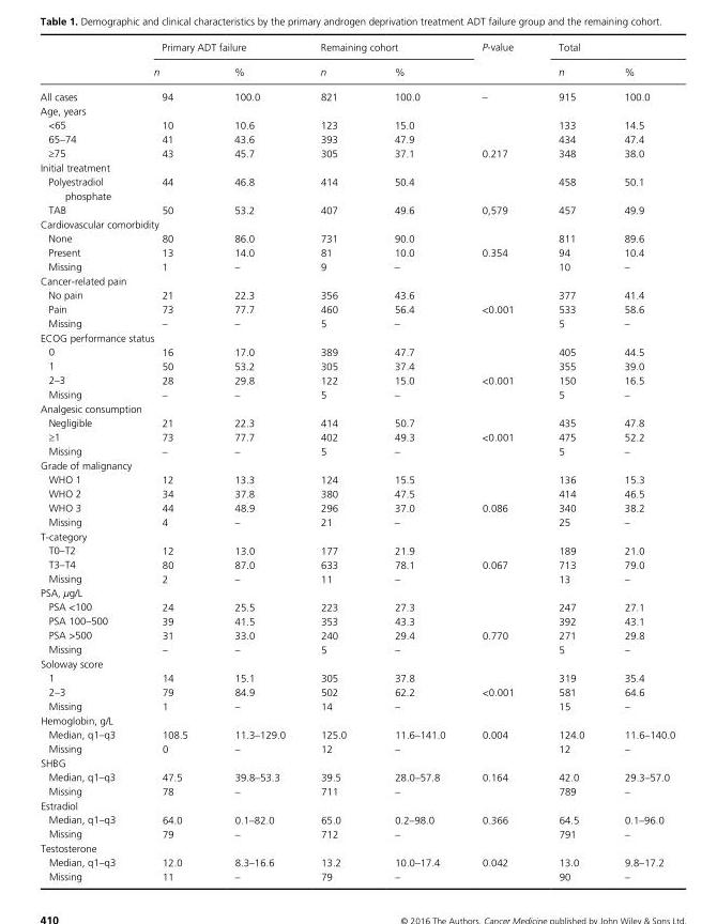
<table><thead><tr><td rowspan="2"></td><td colspan="2">Primary ADT failure</td><td colspan="2">Remaining cohort</td><td rowspan="2">P- value</td><td colspan="2">Total</td></tr><tr><td>n</td><td>%</td><td>n</td><td>%</td><td>n</td><td>%</td></tr></thead><tbody><tr><td>All cases</td><td>94</td><td>100.0</td><td>821</td><td>100.0</td><td>–</td><td>915</td><td>100.0</td></tr><tr><td colspan="8">Age, years</td></tr><tr><td>&lt;65</td><td>10</td><td>10.6</td><td>123</td><td>15.0</td><td></td><td>133</td><td>14.5</td></tr><tr><td>65–74</td><td>41</td><td>43.6</td><td>393</td><td>47.9</td><td></td><td>434</td><td>47.4</td></tr><tr><td>≥75</td><td>43</td><td>45.7</td><td>305</td><td>37.1</td><td>0.217</td><td>348</td><td>38.0</td></tr><tr><td colspan="8">Initial treatment</td></tr><tr><td>Polyestradiol phosphate</td><td>44</td><td>46.8</td><td>414</td><td>50.4</td><td></td><td>458</td><td>50.1</td></tr><tr><td>TAB</td><td>50</td><td>53.2</td><td>407</td><td>49.6</td><td>0,579</td><td>457</td><td>49.9</td></tr><tr><td colspan="8">Cardiovascular comorbidity</td></tr><tr><td>None</td><td>80</td><td>86.0</td><td>731</td><td>90.0</td><td></td><td>811</td><td>89.6</td></tr><tr><td>Present</td><td>13</td><td>14.0</td><td>81</td><td>10.0</td><td>0.354</td><td>94</td><td>10.4</td></tr><tr><td>Missing</td><td>1</td><td>–</td><td>9</td><td>–</td><td></td><td>10</td><td>–</td></tr><tr><td colspan="8">Cancer- related pain</td></tr><tr><td>No pain</td><td>21</td><td>22.3</td><td>356</td><td>43.6</td><td></td><td>377</td><td>41.4</td></tr><tr><td>Pain</td><td>73</td><td>77.7</td><td>460</td><td>56.4</td><td>&lt;0.001</td><td>533</td><td>58.6</td></tr><tr><td>Missing</td><td>–</td><td>–</td><td>5</td><td>–</td><td></td><td>5</td><td>–</td></tr><tr><td colspan="8">ECOG performance status</td></tr><tr><td>0</td><td>16</td><td>17.0</td><td>389</td><td>47.7</td><td></td><td>405</td><td>44.5</td></tr><tr><td>1</td><td>50</td><td>53.2</td><td>305</td><td>37.4</td><td></td><td>355</td><td>39.0</td></tr><tr><td>2–3</td><td>28</td><td>29.8</td><td>122</td><td>15.0</td><td>&lt;0.001</td><td>150</td><td>16.5</td></tr><tr><td>Missing</td><td>–</td><td>–</td><td>5</td><td>–</td><td></td><td>5</td><td>–</td></tr><tr><td colspan="8">Analgesic consumption</td></tr><tr><td>Negligible</td><td>21</td><td>22.3</td><td>414</td><td>50.7</td><td></td><td>435</td><td>47.8</td></tr><tr><td>≥1</td><td>73</td><td>77.7</td><td>402</td><td>49.3</td><td>&lt;0.001</td><td>475</td><td>52.2</td></tr><tr><td>Missing</td><td>–</td><td>–</td><td>5</td><td>–</td><td></td><td>5</td><td>–</td></tr><tr><td colspan="8">Grade of malignancy</td></tr><tr><td>WHO 1</td><td>12</td><td>13.3</td><td>124</td><td>15.5</td><td></td><td>136</td><td>15.3</td></tr><tr><td>WHO 2</td><td>34</td><td>37.8</td><td>380</td><td>47.5</td><td></td><td>414</td><td>46.5</td></tr><tr><td>WHO 3</td><td>44</td><td>48.9</td><td>296</td><td>37.0</td><td>0.086</td><td>340</td><td>38.2</td></tr><tr><td>Missing</td><td>4</td><td>–</td><td>21</td><td>–</td><td></td><td>25</td><td>–</td></tr><tr><td colspan="8">T- category</td></tr><tr><td>T0–T2</td><td>12</td><td>13.0</td><td>177</td><td>21.9</td><td></td><td>189</td><td>21.0</td></tr><tr><td>T3–T4</td><td>80</td><td>87.0</td><td>633</td><td>78.1</td><td>0.067</td><td>713</td><td>79.0</td></tr><tr><td>Missing</td><td>2</td><td>–</td><td>11</td><td>–</td><td></td><td>13</td><td>–</td></tr><tr><td colspan="8">PSA, μg/L</td></tr><tr><td>PSA &lt;100</td><td>24</td><td>25.5</td><td>223</td><td>27.3</td><td></td><td>247</td><td>27.1</td></tr><tr><td>PSA 100–500</td><td>39</td><td>41.5</td><td>353</td><td>43.3</td><td></td><td>392</td><td>43.1</td></tr><tr><td>PSA &gt;500</td><td>31</td><td>33.0</td><td>240</td><td>29.4</td><td>0.770</td><td>271</td><td>29.8</td></tr><tr><td>Missing</td><td>–</td><td>–</td><td>5</td><td>–</td><td></td><td>5</td><td>–</td></tr><tr><td colspan="8">Soloway score</td></tr><tr><td>1</td><td>14</td><td>15.1</td><td>305</td><td>37.8</td><td></td><td>319</td><td>35.4</td></tr><tr><td>2–3</td><td>79</td><td>84.9</td><td>502</td><td>62.2</td><td>&lt;0.001</td><td>581</td><td>64.6</td></tr><tr><td>Missing</td><td>1</td><td>–</td><td>14</td><td>–</td><td></td><td>15</td><td>–</td></tr><tr><td colspan="8">Hemoglobin, g/L</td></tr><tr><td>Median, q1–q3</td><td>108.5</td><td>11.3–129.0</td><td>125.0</td><td>11.6–141.0</td><td>0.004</td><td>124.0</td><td>11.6–140.0</td></tr><tr><td>Missing</td><td>0</td><td>–</td><td>12</td><td>–</td><td></td><td>12</td><td>–</td></tr><tr><td colspan="8">SHBG</td></tr><tr><td>Median, q1–q3</td><td>47.5</td><td>39.8–53.3</td><td>39.5</td><td>28.0–57.8</td><td>0.164</td><td>42.0</td><td>29.3–57.0</td></tr><tr><td>Missing</td><td>78</td><td>–</td><td>711</td><td>–</td><td></td><td>789</td><td>–</td></tr><tr><td colspan="8">Estradiol</td></tr><tr><td>Median, q1–q3</td><td>64.0</td><td>0.1–82.0</td><td>65.0</td><td>0.2–98.0</td><td>0.366</td><td>64.5</td><td>0.1–96.0</td></tr><tr><td>Missing</td><td>79</td><td>–</td><td>712</td><td>–</td><td></td><td>791</td><td>–</td></tr><tr><td colspan="8">Testosterone</td></tr><tr><td>Median, q1–q3</td><td>12.0</td><td>8.3–16.6</td><td>13.2</td><td>10.0–17.4</td><td>0.042</td><td>13.0</td><td>9.8–17.2</td></tr><tr><td>Missing</td><td>11</td><td>–</td><td>79</td><td>–</td><td></td><td>90</td><td>–</td></tr></tbody></table>